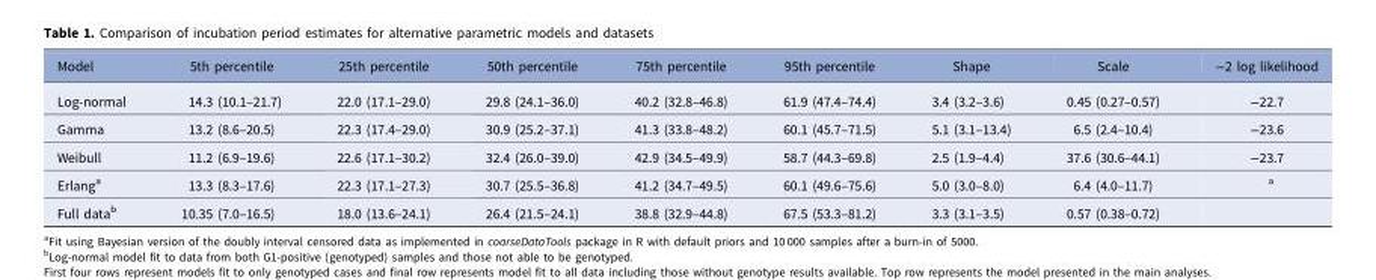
<table><thead><tr><td>Model</td><td>5th percentile</td><td>25th percentile</td><td>50th percentile</td><td>75th percentile</td><td>95th percentile</td><td>Shape</td><td>Scale</td><td>−2 log likelihood</td></tr></thead><tbody><tr><td>Log-normal</td><td>14.3 (10.1–21.7)</td><td>22.0 (17.1–29.0)</td><td>29.8 (24.1–36.0)</td><td>40.2 (32.8–46.8)</td><td>61.9 (47.4–74.4)</td><td>3.4 (3.2–3.6)</td><td>0.45 (0.27–0.57)</td><td>−22.7</td></tr><tr><td>Gamma</td><td>13.2 (8.6–20.5)</td><td>22.3 (17.4–29.0)</td><td>30.9 (25.2–37.1)</td><td>41.3 (33.8–48.2)</td><td>60.1 (45.7–71.5)</td><td>5.1 (3.1–13.4)</td><td>6.5 (2.4–10.4)</td><td>−23.6</td></tr><tr><td>Weibull</td><td>11.2 (6.9–19.6)</td><td>22.6 (17.1–30.2)</td><td>32.4 (26.0–39.0)</td><td>42.9 (34.5–49.9)</td><td>58.7 (44.3–69.8)</td><td>2.5 (1.9–4.4)</td><td>37.6 (30.6–44.1)</td><td>−23.7</td></tr><tr><td>Erlang<sup>a</sup></td><td>13.3 (8.3–17.6)</td><td>22.3 (17.1–27.3)</td><td>30.7 (25.5–36.8)</td><td>41.2 (34.7–49.5)</td><td>60.1 (49.6–75.6)</td><td>5.0 (3.0–8.0)</td><td>6.4 (4.0–11.7)</td><td><sup>a</sup></td></tr><tr><td>Full data<sup>b</sup></td><td>10.35 (7.0–16.5)</td><td>18.0 (13.6–24.1)</td><td>26.4 (21.5–24.1)</td><td>38.8 (32.9–44.8)</td><td>67.5 (53.3–81.2)</td><td>3.3 (3.1–3.5)</td><td>0.57 (0.38–0.72)</td><td></td></tr></tbody></table>